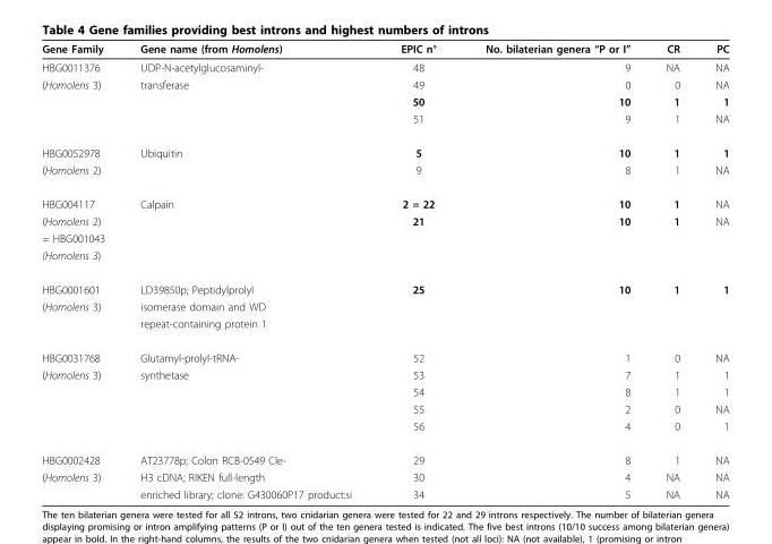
<table><thead><tr><td>Gene Family</td><td>Gene name (from Homolens)</td><td>EPIC n°</td><td>No. bilaterian genera “P or I”</td><td>CR</td><td>PC</td></tr></thead><tbody><tr><td>HBG0011376</td><td>UDP-N-acetylglucosaminyl-</td><td>48</td><td>9</td><td>NA</td><td>NA</td></tr><tr><td rowspan="3">(Homolens 3)</td><td>transferase</td><td>49</td><td>0</td><td>0</td><td>NA</td></tr><tr><td></td><td>50</td><td>10</td><td>1</td><td>1</td></tr><tr><td></td><td>51</td><td>9</td><td>1</td><td>NA</td></tr><tr><td>HBG0052978</td><td>Ubiquitin</td><td>5</td><td>10</td><td>1</td><td>1</td></tr><tr><td>(Homolens 2)</td><td></td><td>9</td><td>8</td><td>1</td><td>NA</td></tr><tr><td>HBG004117</td><td>Calpain</td><td>2 = 22</td><td>10</td><td>1</td><td>NA</td></tr><tr><td>(Homolens 2)</td><td></td><td>21</td><td>10</td><td>1</td><td>NA</td></tr><tr><td colspan="6">= HBG001043</td></tr><tr><td colspan="6">(Homolens 3)</td></tr><tr><td>HBG0001601</td><td>LD39850p; Peptidylprolyl</td><td>25</td><td>10</td><td>1</td><td>1</td></tr><tr><td rowspan="2">(Homolens 3)</td><td>isomerase domain and WD</td><td></td><td></td><td></td><td></td></tr><tr><td>repeat-containing protein 1</td><td></td><td></td><td></td><td></td></tr><tr><td>HBG0031768</td><td>Glutamyl-prolyl-tRNA-</td><td>52</td><td>1</td><td>0</td><td>NA</td></tr><tr><td rowspan="4">(Homolens 3)</td><td>synthetase</td><td>53</td><td>7</td><td>1</td><td>1</td></tr><tr><td></td><td>54</td><td>8</td><td>1</td><td>1</td></tr><tr><td></td><td>55</td><td>2</td><td>0</td><td>NA</td></tr><tr><td></td><td>56</td><td>4</td><td>0</td><td>1</td></tr><tr><td>HBG0002428</td><td>AT23778p; Colon RCB-0549 Cle-</td><td>29</td><td>8</td><td>1</td><td>NA</td></tr><tr><td rowspan="2">(Homolens 3)</td><td>H3 cDNA; RIKEN full-length</td><td>30</td><td>4</td><td>NA</td><td>NA</td></tr><tr><td>enriched library; clone: G430060P17 product:si</td><td>34</td><td>5</td><td>NA</td><td>NA</td></tr></tbody></table>